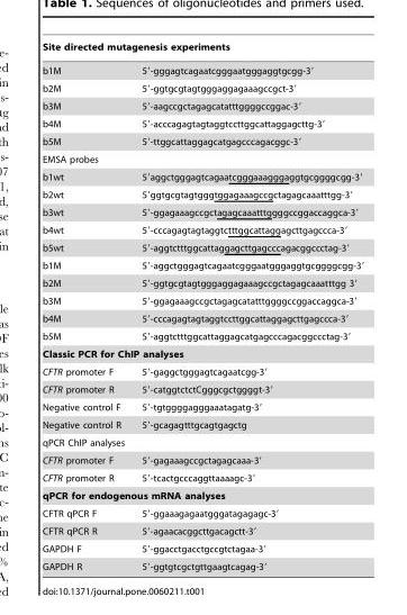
<table><thead><tr><td colspan="2">Site directed mutagenesis experiments</td></tr><tr><td>b1M</td><td>5′-gggagtcagaatcgggaatgggaggtgcgg-3′</td></tr></thead><tbody><tr><td>b2M</td><td>5′-ggtgcgtagtgggaggagaaagccgct-3′</td></tr><tr><td>b3M</td><td>5′-aagccgctagagcatatttggggccggac-3′</td></tr><tr><td>b4M</td><td>5′-acccagagtagtaggtccttggcattaggagcttg-3′</td></tr><tr><td>b5M</td><td>5′-ttggcattaggagcatgagcccagacggc-3′</td></tr><tr><td colspan="2">EMSA probes</td></tr><tr><td>b1wt</td><td>5′aggctgggagtcagaatcgggaaagggaggtgcggggcgg-3′</td></tr><tr><td>b2wt</td><td>5′ggtgcgtagtgggtggagaaagccgctagagcaaatttgg-3′</td></tr><tr><td>b3wt</td><td>5′-ggagaaagccgctagagcaaatttggggccggaccaggca-3′</td></tr><tr><td>b4wt</td><td>5′-cccagagtagtaggtctttggcattaggagcttgagccca-3′</td></tr><tr><td>b5wt</td><td>5′-aggtctttggcattaggagcttgagcccagacggccctag-3′</td></tr><tr><td>b1M</td><td>5′-aggctgggagtcagaatcgggaatgggaggtgcggggcgg-3′</td></tr><tr><td>b2M</td><td>5′-ggtgcgtagtgggaggagaaagccgctagagcaaatttgg 3′</td></tr><tr><td>b3M</td><td>5′-ggagaaagccgctagagcatatttggggccggaccaggca-3′</td></tr><tr><td>b4M</td><td>5′-cccagagtagtaggtccttggcattaggagcttgagccca-3′</td></tr><tr><td>b5M</td><td>5′-aggtctttggcattaggagcatgagcccagacggccctag-3′</td></tr><tr><td colspan="2">Classic PCR for ChIP analyses</td></tr><tr><td>CFTR promoter F</td><td>5′-gaggctgggagtcagaatcgg-3′</td></tr><tr><td>CFTR promoter R</td><td>5′-catggtctctCgggcgctggggt-3′</td></tr><tr><td>Negative control F</td><td>5′-tgtggggagggaaatagatg-3′</td></tr><tr><td>Negative control R</td><td>5′-gcagagtttgcagtgagctg</td></tr><tr><td colspan="2">qPCR ChIP analyses</td></tr><tr><td>CFTR promoter F</td><td>5′-gagaaagccgctagagcaaa-3′</td></tr><tr><td>CFTR promoter R</td><td>5′-tcactgcccaggttaaaagc-3′</td></tr><tr><td colspan="2">qPCR for endogenous mRNA analyses</td></tr><tr><td>CFTR qPCR F</td><td>5′-ggaaagagaatgggatagagagc-3′</td></tr><tr><td>CFTR qPCR R</td><td>5′-agaacacggcttgacagctt-3′</td></tr><tr><td>GAPDH F</td><td>5′-ggacctgacctgccgtctagaa-3′</td></tr><tr><td>GAPDH R</td><td>5′-ggtgtcgctgttgaagtcagag-3′</td></tr></tbody></table>